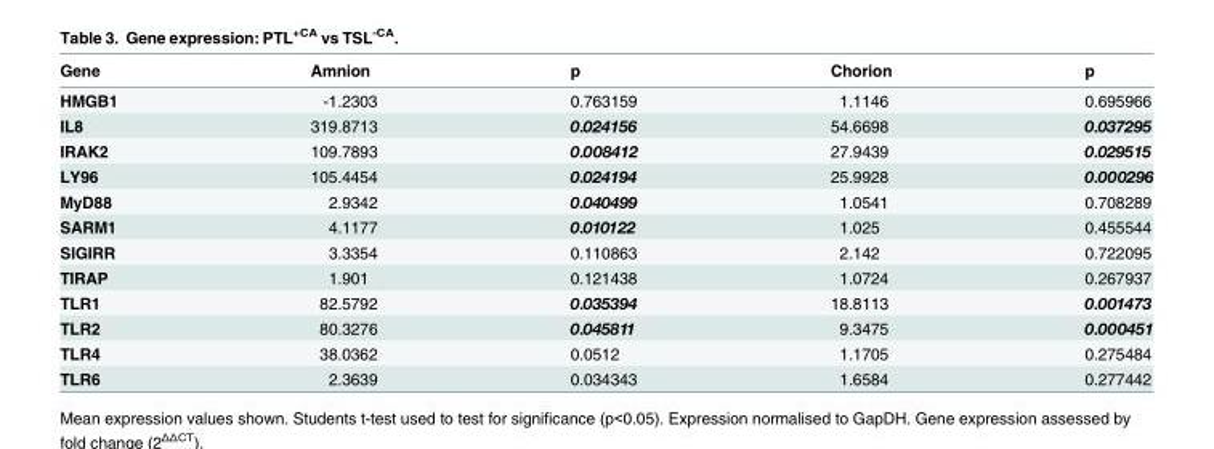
<table><thead><tr><td>Gene</td><td>Amnion</td><td>p</td><td>Chorion</td><td>p</td></tr></thead><tbody><tr><td>HMGB1</td><td>-1.2303</td><td>0.763159</td><td>1.1146</td><td>0.695966</td></tr><tr><td>IL8</td><td>319.8713</td><td>0.024156</td><td>54.6698</td><td>0.037295</td></tr><tr><td>IRAK2</td><td>109.7893</td><td>0.008412</td><td>27.9439</td><td>0.029515</td></tr><tr><td>LY96</td><td>105.4454</td><td>0.024194</td><td>25.9928</td><td>0.000296</td></tr><tr><td>MyD88</td><td>2.9342</td><td>0.040499</td><td>1.0541</td><td>0.708289</td></tr><tr><td>SARM1</td><td>4.1177</td><td>0.010122</td><td>1.025</td><td>0.455544</td></tr><tr><td>SIGIRR</td><td>3.3354</td><td>0.110863</td><td>2.142</td><td>0.722095</td></tr><tr><td>TIRAP</td><td>1.901</td><td>0.121438</td><td>1.0724</td><td>0.267937</td></tr><tr><td>TLR1</td><td>82.5792</td><td>0.035394</td><td>18.8113</td><td>0.001473</td></tr><tr><td>TLR2</td><td>80.3276</td><td>0.045811</td><td>9.3475</td><td>0.000451</td></tr><tr><td>TLR4</td><td>38.0362</td><td>0.0512</td><td>1.1705</td><td>0.275484</td></tr><tr><td>TLR6</td><td>2.3639</td><td>0.034343</td><td>1.6584</td><td>0.277442</td></tr></tbody></table>